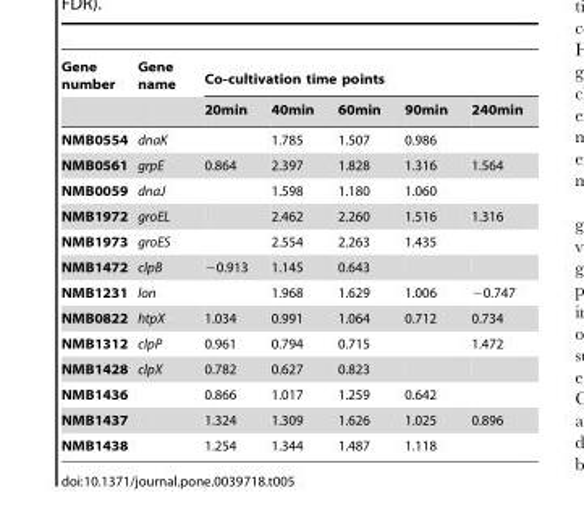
<table><thead><tr><td rowspan="2">Gene number</td><td rowspan="2">Gene name</td><td colspan="5">Co-cultivation time points</td></tr><tr><td>20min</td><td>40min</td><td>60min</td><td>90min</td><td>240min</td></tr></thead><tbody><tr><td>NMB0554</td><td>dnaK</td><td></td><td>1.785</td><td>1.507</td><td>0.986</td><td></td></tr><tr><td>NMB0561</td><td>grpE</td><td>0.864</td><td>2.397</td><td>1.828</td><td>1.316</td><td>1.564</td></tr><tr><td>NMB0059</td><td>dnaJ</td><td></td><td>1.598</td><td>1.180</td><td>1.060</td><td></td></tr><tr><td>NMB1972</td><td>groEL</td><td></td><td>2.462</td><td>2.260</td><td>1.516</td><td>1.316</td></tr><tr><td>NMB1973</td><td>groES</td><td></td><td>2.554</td><td>2.263</td><td>1.435</td><td></td></tr><tr><td>NMB1472</td><td>clpB</td><td>−0.913</td><td>1.145</td><td>0.643</td><td></td><td></td></tr><tr><td>NMB1231</td><td>lon</td><td></td><td>1.968</td><td>1.629</td><td>1.006</td><td>−0.747</td></tr><tr><td>NMB0822</td><td>htpX</td><td>1.034</td><td>0.991</td><td>1.064</td><td>0.712</td><td>0.734</td></tr><tr><td>NMB1312</td><td>clpP</td><td>0.961</td><td>0.794</td><td>0.715</td><td></td><td>1.472</td></tr><tr><td>NMB1428</td><td>clpX</td><td>0.782</td><td>0.627</td><td>0.823</td><td></td><td></td></tr><tr><td>NMB1436</td><td></td><td>0.866</td><td>1.017</td><td>1.259</td><td>0.642</td><td></td></tr><tr><td>NMB1437</td><td></td><td>1.324</td><td>1.309</td><td>1.626</td><td>1.025</td><td>0.896</td></tr><tr><td>NMB1438</td><td></td><td>1.254</td><td>1.344</td><td>1.487</td><td>1.118</td><td></td></tr></tbody></table>